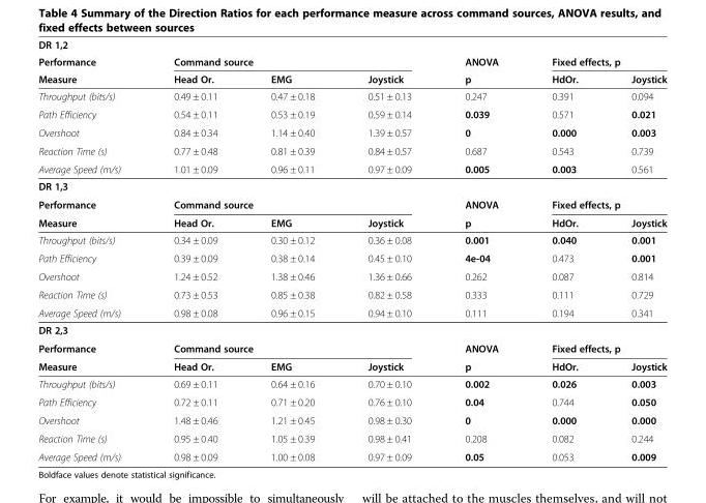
<table><thead><tr><td rowspan="3">DR 1,2 Performance Measure</td><td></td><td></td><td></td><td rowspan="3">ANOVA p</td><td></td><td></td></tr><tr><td colspan="3">Command source</td><td colspan="2">Fixed effects, p</td></tr><tr><td>Head Or.</td><td>EMG</td><td>Joystick</td><td>HdOr.</td><td>Joystick</td></tr></thead><tbody><tr><td>Throughput (bits/s)</td><td>0.49 ± 0.11</td><td>0.47 ± 0.18</td><td>0.51 ± 0.13</td><td>0.247</td><td>0.391</td><td>0.094</td></tr><tr><td>Path Efficiency</td><td>0.54 ± 0.11</td><td>0.53 ± 0.19</td><td>0.59 ± 0.14</td><td>0.039</td><td>0.571</td><td>0.021</td></tr><tr><td>Overshoot</td><td>0.84 ± 0.34</td><td>1.14 ± 0.40</td><td>1.39 ± 0.57</td><td>0</td><td>0.000</td><td>0.003</td></tr><tr><td>Reaction Time (s)</td><td>0.77 ± 0.48</td><td>0.81 ± 0.39</td><td>0.84 ± 0.57</td><td>0.687</td><td>0.543</td><td>0.739</td></tr><tr><td>Average Speed (m/s)</td><td>1.01 ± 0.09</td><td>0.96 ± 0.11</td><td>0.97 ± 0.09</td><td>0.005</td><td>0.003</td><td>0.561</td></tr><tr><td colspan="7">DR 1,3</td></tr><tr><td>Performance</td><td colspan="3">Command source</td><td>ANOVA</td><td colspan="2">Fixed effects, p</td></tr><tr><td>Measure</td><td>Head Or.</td><td>EMG</td><td>Joystick</td><td>p</td><td>HdOr.</td><td>Joystick</td></tr><tr><td>Throughput (bits/s)</td><td>0.34 ± 0.09</td><td>0.30 ± 0.12</td><td>0.36 ± 0.08</td><td>0.001</td><td>0.040</td><td>0.001</td></tr><tr><td>Path Efficiency</td><td>0.39 ± 0.09</td><td>0.38 ± 0.14</td><td>0.45 ± 0.10</td><td>4e-04</td><td>0.473</td><td>0.001</td></tr><tr><td>Overshoot</td><td>1.24 ± 0.52</td><td>1.38 ± 0.46</td><td>1.36 ± 0.66</td><td>0.262</td><td>0.087</td><td>0.814</td></tr><tr><td>Reaction Time (s)</td><td>0.73 ± 0.53</td><td>0.85 ± 0.38</td><td>0.82 ± 0.58</td><td>0.333</td><td>0.111</td><td>0.729</td></tr><tr><td>Average Speed (m/s)</td><td>0.98 ± 0.08</td><td>0.96 ± 0.15</td><td>0.94 ± 0.10</td><td>0.111</td><td>0.194</td><td>0.341</td></tr><tr><td colspan="7">DR 2,3</td></tr><tr><td>Performance</td><td colspan="3">Command source</td><td>ANOVA</td><td colspan="2">Fixed effects, p</td></tr><tr><td>Measure</td><td>Head Or.</td><td>EMG</td><td>Joystick</td><td>p</td><td>HdOr.</td><td>Joystick</td></tr><tr><td>Throughput (bits/s)</td><td>0.69 ± 0.11</td><td>0.64 ± 0.16</td><td>0.70 ± 0.10</td><td>0.002</td><td>0.026</td><td>0.003</td></tr><tr><td>Path Efficiency</td><td>0.72 ± 0.11</td><td>0.71 ± 0.20</td><td>0.76 ± 0.10</td><td>0.04</td><td>0.744</td><td>0.050</td></tr><tr><td>Overshoot</td><td>1.48 ± 0.46</td><td>1.21 ± 0.45</td><td>0.98 ± 0.30</td><td>0</td><td>0.000</td><td>0.000</td></tr><tr><td>Reaction Time (s)</td><td>0.95 ± 0.40</td><td>1.05 ± 0.39</td><td>0.98 ± 0.41</td><td>0.208</td><td>0.082</td><td>0.244</td></tr><tr><td>Average Speed (m/s)</td><td>0.98 ± 0.09</td><td>1.00 ± 0.08</td><td>0.97 ± 0.09</td><td>0.05</td><td>0.053</td><td>0.009</td></tr></tbody></table>